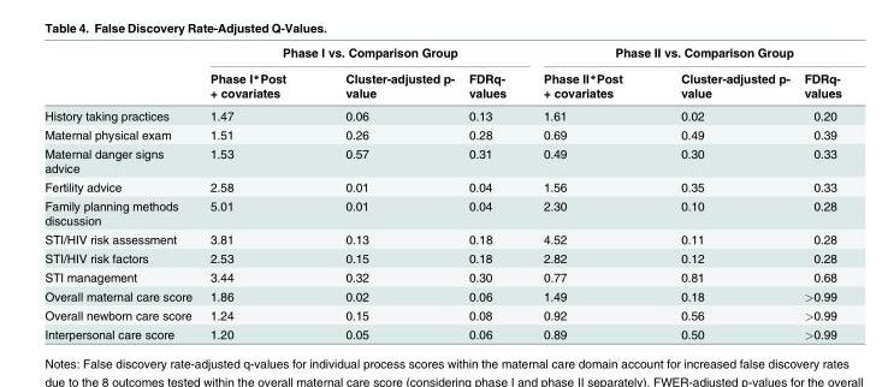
<table><thead><tr><td rowspan="2"></td><td colspan="3">Phase I vs. Comparison Group</td><td colspan="3">Phase II vs. Comparison Group</td></tr><tr><td>Phase I*Post + covariates</td><td>Cluster-adjusted p- value</td><td>FDRq- values</td><td>Phase II*Post + covariates</td><td>Cluster-adjusted p- value</td><td>FDRq- values</td></tr></thead><tbody><tr><td>History taking practices</td><td>1.47</td><td>0.06</td><td>0.13</td><td>1.61</td><td>0.02</td><td>0.20</td></tr><tr><td>Maternal physical exam</td><td>1.51</td><td>0.26</td><td>0.28</td><td>0.69</td><td>0.49</td><td>0.39</td></tr><tr><td>Maternal danger signs advice</td><td>1.53</td><td>0.57</td><td>0.31</td><td>0.49</td><td>0.30</td><td>0.33</td></tr><tr><td>Fertility advice</td><td>2.58</td><td>0.01</td><td>0.04</td><td>1.56</td><td>0.35</td><td>0.33</td></tr><tr><td>Family planning methods discussion</td><td>5.01</td><td>0.01</td><td>0.04</td><td>2.30</td><td>0.10</td><td>0.28</td></tr><tr><td>STI/HIV risk assessment</td><td>3.81</td><td>0.13</td><td>0.18</td><td>4.52</td><td>0.11</td><td>0.28</td></tr><tr><td>STI/HIV risk factors</td><td>2.53</td><td>0.15</td><td>0.18</td><td>2.82</td><td>0.12</td><td>0.28</td></tr><tr><td>STI management</td><td>3.44</td><td>0.32</td><td>0.30</td><td>0.77</td><td>0.81</td><td>0.68</td></tr><tr><td>Overall maternal care score</td><td>1.86</td><td>0.02</td><td>0.06</td><td>1.49</td><td>0.18</td><td>&gt;0.99</td></tr><tr><td>Overall newborn care score</td><td>1.24</td><td>0.15</td><td>0.08</td><td>0.92</td><td>0.56</td><td>&gt;0.99</td></tr><tr><td>Interpersonal care score</td><td>1.20</td><td>0.05</td><td>0.06</td><td>0.89</td><td>0.50</td><td>&gt;0.99</td></tr></tbody></table>